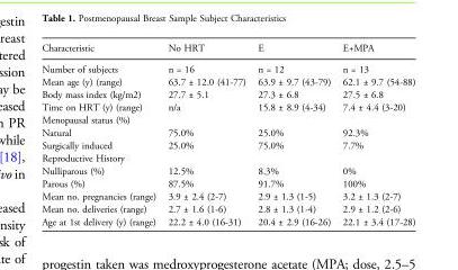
<table><thead><tr><td>Characteristic</td><td>No HRT</td><td>E</td><td>E+MPA</td></tr></thead><tbody><tr><td>Number of subjects</td><td>n = 16</td><td>n = 12</td><td>n = 13</td></tr><tr><td>Mean age (y) (range)</td><td>63.7 ± 12.0 (41-77)</td><td>63.9 ± 9.7 (43-79)</td><td>62.1 ± 9.7 (54-88)</td></tr><tr><td>Body mass index (kg/m2)</td><td>27.7 ± 5.1</td><td>27.3 ± 6.8</td><td>27.5 ± 6.8</td></tr><tr><td>Time on HRT (y) (range)</td><td>n/a</td><td>15.8 ± 8.9 (4-34)</td><td>7.4 ± 4.4 (3-20)</td></tr><tr><td colspan="4">Menopausal status (%)</td></tr><tr><td>Natural</td><td>75.0%</td><td>25.0%</td><td>92.3%</td></tr><tr><td>Surgically induced</td><td>25.0%</td><td>75.0%</td><td>7.7%</td></tr><tr><td colspan="4">Reproductive History</td></tr><tr><td>Nulliparous (%)</td><td>12.5%</td><td>8.3%</td><td>0%</td></tr><tr><td>Parous (%)</td><td>87.5%</td><td>91.7%</td><td>100%</td></tr><tr><td>Mean no. pregnancies (range)</td><td>3.9 ± 2.4 (2-7)</td><td>2.9 ± 1.3 (1-5)</td><td>3.2 ± 1.3 (2-7)</td></tr><tr><td>Mean no. deliveries (range)</td><td>2.7 ± 1.6 (1-6)</td><td>2.8 ± 1.3 (1-4)</td><td>2.9 ± 1.2 (2-6)</td></tr><tr><td>Age at 1st delivery (y) (range)</td><td>22.2 ± 4.0 (16-31)</td><td>20.4 ± 2.9 (16-26)</td><td>22.1 ± 3.4 (17-28)</td></tr></tbody></table>